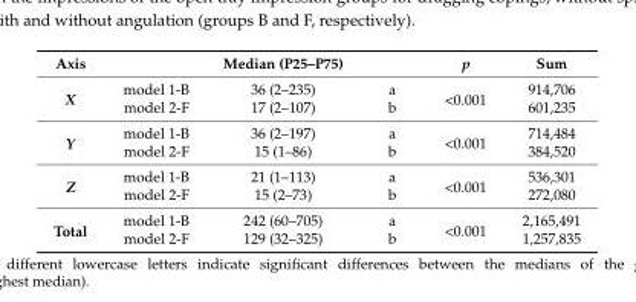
<table><thead><tr><td>Axis</td><td></td><td>Median (P25–P75)</td><td></td><td>p</td><td>Sum</td></tr></thead><tbody><tr><td rowspan="2">X</td><td>model 1-B</td><td>36 (2–235)</td><td>a</td><td rowspan="2">&lt;0.001</td><td>914,706</td></tr><tr><td>model 2-F</td><td>17 (2–107)</td><td>b</td><td>601,235</td></tr><tr><td rowspan="2">Y</td><td>model 1-B</td><td>36 (2–197)</td><td>a</td><td rowspan="2">&lt;0.001</td><td>714,484</td></tr><tr><td>model 2-F</td><td>15 (1–86)</td><td>b</td><td>384,520</td></tr><tr><td rowspan="2">Z</td><td>model 1-B</td><td>21 (1–113)</td><td>a</td><td rowspan="2">&lt;0.001</td><td>536,301</td></tr><tr><td>model 2-F</td><td>15 (2–73)</td><td>b</td><td>272,080</td></tr><tr><td rowspan="2">Total</td><td>model 1-B</td><td>242 (60–705)</td><td>a</td><td rowspan="2">&lt;0.001</td><td>2,165,491</td></tr><tr><td>model 2-F</td><td>129 (32–325)</td><td>b</td><td>1,257,835</td></tr></tbody></table>